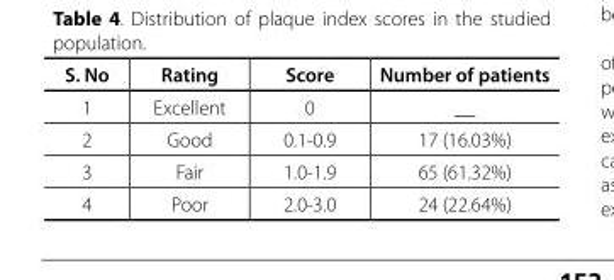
<table><thead><tr><td>S. No</td><td>Rating</td><td>Score</td><td>Number of patients</td></tr></thead><tbody><tr><td>1</td><td>Excellent</td><td>0</td><td>__</td></tr><tr><td>2</td><td>Good</td><td>0.1-0.9</td><td>17 (16.03%)</td></tr><tr><td>3</td><td>Fair</td><td>1.0-1.9</td><td>65 (61.32%)</td></tr><tr><td>4</td><td>Poor</td><td>2.0-3.0</td><td>24 (22.64%)</td></tr></tbody></table>